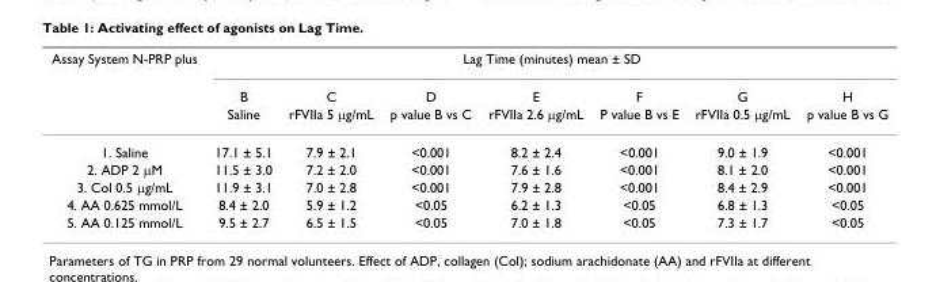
<table><thead><tr><td rowspan="3">Assay System N-PRP plus</td><td colspan="7">Lag Time (minutes) mean ± SD</td></tr><tr><td rowspan="2">B Saline</td><td rowspan="2">C rFVIIa 5 µg/mL</td><td rowspan="2">D p value B vs C</td><td rowspan="2">E rFVIIa 2.6 µg/mL</td><td rowspan="2">F P value B vs E</td><td rowspan="2">G rFVIIa 0.5 µg/mL</td><td rowspan="2">H p value B vs G</td></tr><tr></tr></thead><tbody><tr><td>1. Saline</td><td>17.1 ± 5.1</td><td>7.9 ± 2.1</td><td>&lt;0.001</td><td>8.2 ± 2.4</td><td>&lt;0.001</td><td>9.0 ± 1.9</td><td>&lt;0.001</td></tr><tr><td>2. ADP 2 µM</td><td>11.5 ± 3.0</td><td>7.2 ± 2.0</td><td>&lt;0.001</td><td>7.6 ± 1.6</td><td>&lt;0.001</td><td>8.1 ± 2.0</td><td>&lt;0.001</td></tr><tr><td>3. Col 0.5 µg/mL</td><td>11.9 ± 3.1</td><td>7.0 ± 2.8</td><td>&lt;0.001</td><td>7.9 ± 2.8</td><td>&lt;0.001</td><td>8.4 ± 2.9</td><td>&lt;0.001</td></tr><tr><td>4. AA 0.625 mmol/L</td><td>8.4 ± 2.0</td><td>5.9 ± 1.2</td><td>&lt;0.05</td><td>6.2 ± 1.3</td><td>&lt;0.05</td><td>6.8 ± 1.3</td><td>&lt;0.05</td></tr><tr><td>5. AA 0.125 mmol/L</td><td>9.5 ± 2.7</td><td>6.5 ± 1.5</td><td>&lt;0.05</td><td>7.0 ± 1.8</td><td>&lt;0.05</td><td>7.3 ± 1.7</td><td>&lt;0.05</td></tr></tbody></table>